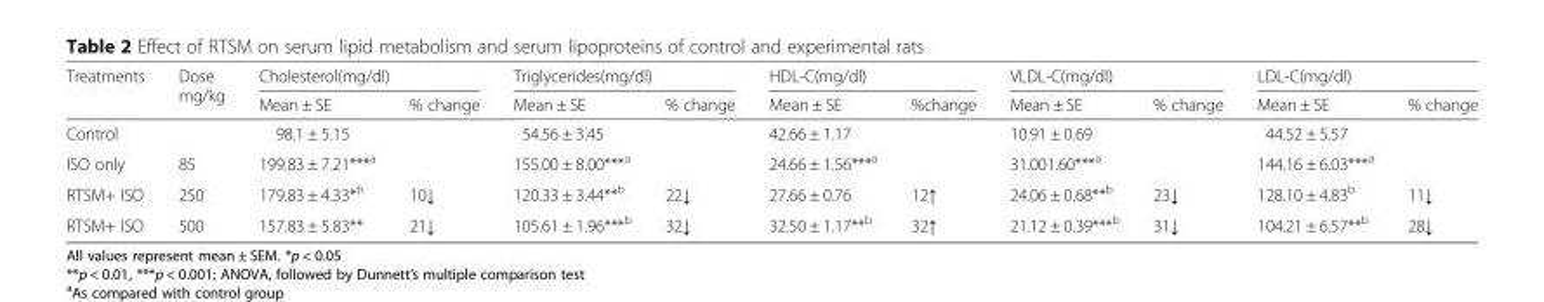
<table><thead><tr><td rowspan="2">Treatments</td><td rowspan="2">Dose mg/kg</td><td colspan="2">Cholesterol(mg/dl)</td><td colspan="2">Triglycerides(mg/dl)</td><td colspan="2">HDL-C(mg/dl)</td><td colspan="2">VLDL-C(mg/dl)</td><td colspan="2">LDL-C(mg/dl)</td></tr><tr><td>Mean ± SE</td><td>% change</td><td>Mean ± SE</td><td>% change</td><td>Mean ± SE</td><td>%change</td><td>Mean ± SE</td><td>% change</td><td>Mean ± SE</td><td>% change</td></tr></thead><tbody><tr><td>Control</td><td></td><td>98.1 ± 5.15</td><td></td><td>54.56 ± 3.45</td><td></td><td>42.66 ± 1.17</td><td></td><td>10.91 ± 0.69</td><td></td><td>44.52 ± 5.57</td><td></td></tr><tr><td>ISO only</td><td>85</td><td>199.83 ± 7.21***<sup>a</sup></td><td></td><td>155.00 ± 8.00***<sup>a</sup></td><td></td><td>24.66 ± 1.56***<sup>a</sup></td><td></td><td>31.001.60***<sup>a</sup></td><td></td><td>144.16 ± 6.03***<sup>a</sup></td><td></td></tr><tr><td>RTSM+ ISO</td><td>250</td><td>179.83 ± 4.33*<sup>b</sup></td><td>10↓</td><td>120.33 ± 3.44**<sup>b</sup></td><td>22↓</td><td>27.66 ± 0.76</td><td>12↑</td><td>24.06 ± 0.68**<sup>b</sup></td><td>23↓</td><td>128.10 ± 4.83<sup>b</sup></td><td>11↓</td></tr><tr><td>RTSM+ ISO</td><td>500</td><td>157.83 ± 5.83**</td><td>21↓</td><td>105.61 ± 1.96***<sup>b</sup></td><td>32↓</td><td>32.50 ± 1.17**<sup>b</sup></td><td>32↑</td><td>21.12 ± 0.39***<sup>b</sup></td><td>31↓</td><td>104.21 ± 6.57**<sup>b</sup></td><td>28↓</td></tr></tbody></table>